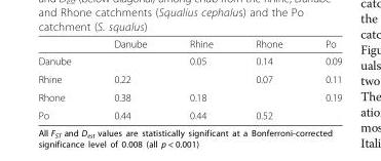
<table><thead><tr><td></td><td>Danube</td><td>Rhine</td><td>Rhone</td><td>Po</td></tr></thead><tbody><tr><td>Danube</td><td></td><td>0.05</td><td>0.14</td><td>0.09</td></tr><tr><td>Rhine</td><td>0.22</td><td></td><td>0.07</td><td>0.11</td></tr><tr><td>Rhone</td><td>0.38</td><td>0.18</td><td></td><td>0.19</td></tr><tr><td>Po</td><td>0.44</td><td>0.44</td><td>0.52</td><td></td></tr></tbody></table>